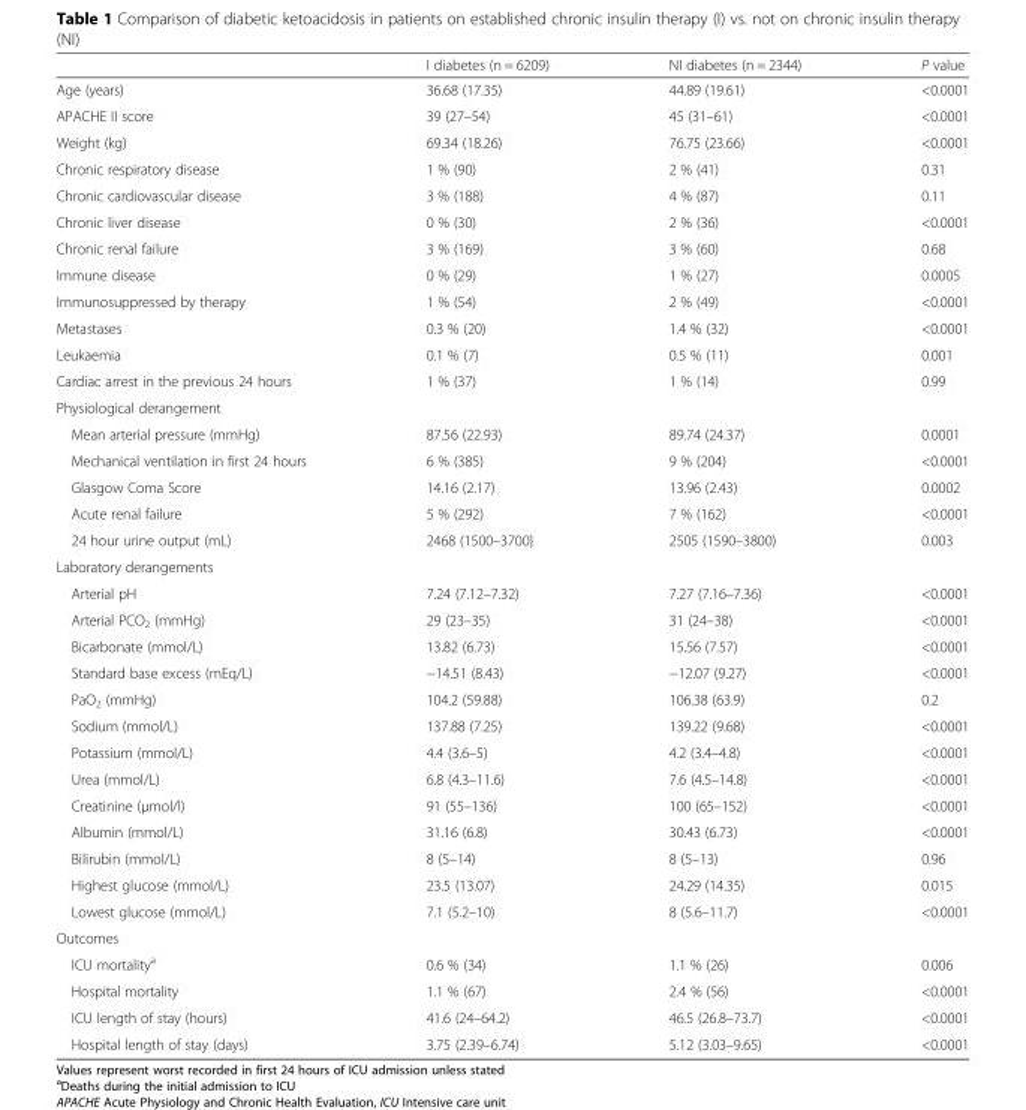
<table><thead><tr><td></td><td>I diabetes (n = 6209)</td><td>NI diabetes (n = 2344)</td><td>P value</td></tr></thead><tbody><tr><td>Age (years)</td><td>36.68 (17.35)</td><td>44.89 (19.61)</td><td>&lt;0.0001</td></tr><tr><td>APACHE II score</td><td>39 (27–54)</td><td>45 (31–61)</td><td>&lt;0.0001</td></tr><tr><td>Weight (kg)</td><td>69.34 (18.26)</td><td>76.75 (23.66)</td><td>&lt;0.0001</td></tr><tr><td>Chronic respiratory disease</td><td>1 % (90)</td><td>2 % (41)</td><td>0.31</td></tr><tr><td>Chronic cardiovascular disease</td><td>3 % (188)</td><td>4 % (87)</td><td>0.11</td></tr><tr><td>Chronic liver disease</td><td>0 % (30)</td><td>2 % (36)</td><td>&lt;0.0001</td></tr><tr><td>Chronic renal failure</td><td>3 % (169)</td><td>3 % (60)</td><td>0.68</td></tr><tr><td>Immune disease</td><td>0 % (29)</td><td>1 % (27)</td><td>0.0005</td></tr><tr><td>Immunosuppressed by therapy</td><td>1 % (54)</td><td>2 % (49)</td><td>&lt;0.0001</td></tr><tr><td>Metastases</td><td>0.3 % (20)</td><td>1.4 % (32)</td><td>&lt;0.0001</td></tr><tr><td>Leukaemia</td><td>0.1 % (7)</td><td>0.5 % (11)</td><td>0.001</td></tr><tr><td>Cardiac arrest in the previous 24 hours</td><td>1 % (37)</td><td>1 % (14)</td><td>0.99</td></tr><tr><td colspan="4">Physiological derangement</td></tr><tr><td>Mean arterial pressure (mmHg)</td><td>87.56 (22.93)</td><td>89.74 (24.37)</td><td>0.0001</td></tr><tr><td>Mechanical ventilation in first 24 hours</td><td>6 % (385)</td><td>9 % (204)</td><td>&lt;0.0001</td></tr><tr><td>Glasgow Coma Score</td><td>14.16 (2.17)</td><td>13.96 (2.43)</td><td>0.0002</td></tr><tr><td>Acute renal failure</td><td>5 % (292)</td><td>7 % (162)</td><td>&lt;0.0001</td></tr><tr><td>24 hour urine output (mL)</td><td>2468 (1500–3700}</td><td>2505 (1590–3800)</td><td>0.003</td></tr><tr><td colspan="4">Laboratory derangements</td></tr><tr><td>Arterial pH</td><td>7.24 (7.12–7.32)</td><td>7.27 (7.16–7.36)</td><td>&lt;0.0001</td></tr><tr><td>Arterial PCO<sub>2</sub> (mmHg)</td><td>29 (23–35)</td><td>31 (24–38)</td><td>&lt;0.0001</td></tr><tr><td>Bicarbonate (mmol/L)</td><td>13.82 (6.73)</td><td>15.56 (7.57)</td><td>&lt;0.0001</td></tr><tr><td>Standard base excess (mEq/L)</td><td>−14.51 (8.43)</td><td>−12.07 (9.27)</td><td>&lt;0.0001</td></tr><tr><td>PaO<sub>2</sub> (mmHg)</td><td>104.2 (59.88)</td><td>106.38 (63.9)</td><td>0.2</td></tr><tr><td>Sodium (mmol/L)</td><td>137.88 (7.25)</td><td>139.22 (9.68)</td><td>&lt;0.0001</td></tr><tr><td>Potassium (mmol/L)</td><td>4.4 (3.6–5)</td><td>4.2 (3.4–4.8)</td><td>&lt;0.0001</td></tr><tr><td>Urea (mmol/L)</td><td>6.8 (4.3–11.6)</td><td>7.6 (4.5–14.8)</td><td>&lt;0.0001</td></tr><tr><td>Creatinine (μmol/l)</td><td>91 (55–136)</td><td>100 (65–152)</td><td>&lt;0.0001</td></tr><tr><td>Albumin (mmol/L)</td><td>31.16 (6.8)</td><td>30.43 (6.73)</td><td>&lt;0.0001</td></tr><tr><td>Bilirubin (mmol/L)</td><td>8 (5–14)</td><td>8 (5–13)</td><td>0.96</td></tr><tr><td>Highest glucose (mmol/L)</td><td>23.5 (13.07)</td><td>24.29 (14.35)</td><td>0.015</td></tr><tr><td>Lowest glucose (mmol/L)</td><td>7.1 (5.2–10)</td><td>8 (5.6–11.7)</td><td>&lt;0.0001</td></tr><tr><td colspan="4">Outcomes</td></tr><tr><td>ICU mortality<sup>a</sup></td><td>0.6 % (34)</td><td>1.1 % (26)</td><td>0.006</td></tr><tr><td>Hospital mortality</td><td>1.1 % (67)</td><td>2.4 % (56)</td><td>&lt;0.0001</td></tr><tr><td>ICU length of stay (hours)</td><td>41.6 (24–64.2)</td><td>46.5 (26.8–73.7)</td><td>&lt;0.0001</td></tr><tr><td>Hospital length of stay (days)</td><td>3.75 (2.39–6.74)</td><td>5.12 (3.03–9.65)</td><td>&lt;0.0001</td></tr></tbody></table>